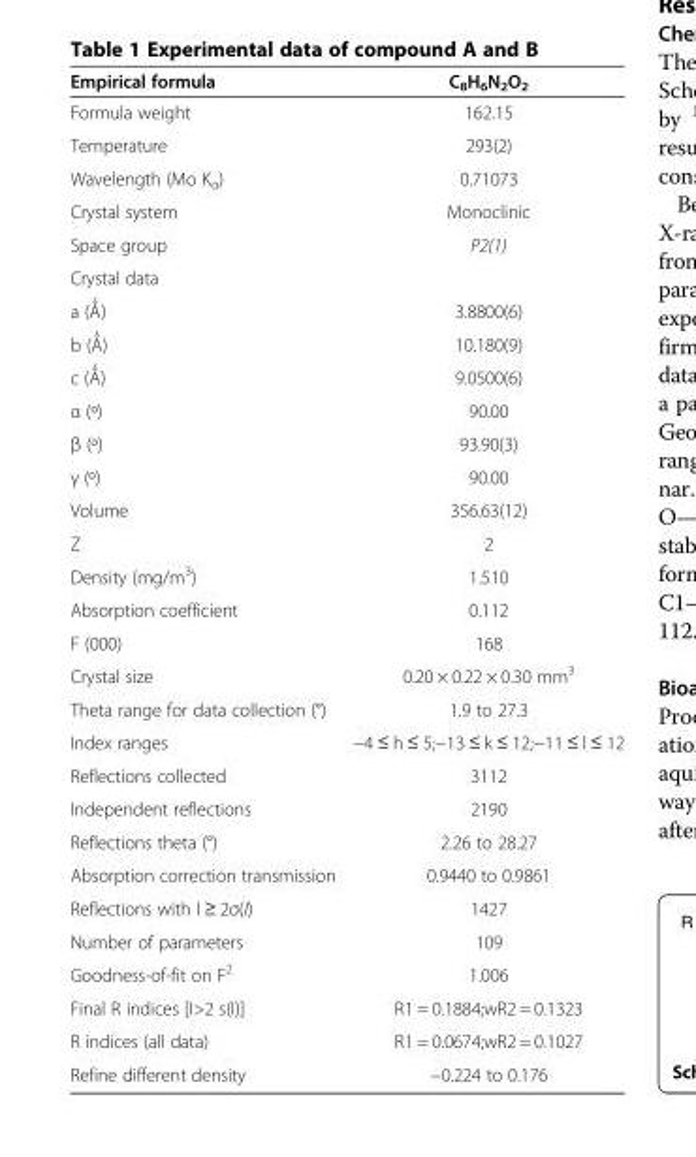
<table><thead><tr><td>Empirical formula</td><td>C<sub>8</sub>H<sub>6</sub>N<sub>2</sub>O<sub>2</sub></td></tr></thead><tbody><tr><td>Formula weight</td><td>162.15</td></tr><tr><td>Temperature</td><td>293(2)</td></tr><tr><td>Wavelength (Mo K<sub>α</sub>)</td><td>0.71073</td></tr><tr><td>Crystal system</td><td>Monoclinic</td></tr><tr><td>Space group</td><td>P2(1)</td></tr><tr><td colspan="2">Crystal data</td></tr><tr><td>a (Ǻ)</td><td>3.8800(6)</td></tr><tr><td>b (Ǻ)</td><td>10.180(9)</td></tr><tr><td>c (Ǻ)</td><td>9.0500(6)</td></tr><tr><td>α (º)</td><td>90.00</td></tr><tr><td>β (º)</td><td>93.90(3)</td></tr><tr><td>γ (º)</td><td>90.00</td></tr><tr><td>Volume</td><td>356.63(12)</td></tr><tr><td>Z</td><td>2</td></tr><tr><td>Density (mg/m<sup>3</sup>)</td><td>1.510</td></tr><tr><td>Absorption coefficient</td><td>0.112</td></tr><tr><td>F (000)</td><td>168</td></tr><tr><td>Crystal size</td><td>0.20 × 0.22 × 0.30 mm<sup>3</sup></td></tr><tr><td>Theta range for data collection (°)</td><td>1.9 to 27.3</td></tr><tr><td>Index ranges</td><td>−4 ≤ h ≤ 5;−13 ≤ k ≤ 12;−11 ≤ l ≤ 12</td></tr><tr><td>Reflections collected</td><td>3112</td></tr><tr><td>Independent reflections</td><td>2190</td></tr><tr><td>Reflections theta (°)</td><td>2.26 to 28.27</td></tr><tr><td>Absorption correction transmission</td><td>0.9440 to 0.9861</td></tr><tr><td>Reflections with I ≥ 2σ(I)</td><td>1427</td></tr><tr><td>Number of parameters</td><td>109</td></tr><tr><td>Goodness-of-fit on F<sup>2</sup></td><td>1.006</td></tr><tr><td>Final R indices [I&gt;2 s(I)]</td><td>R1 = 0.1884;wR2 = 0.1323</td></tr><tr><td>R indices (all data)</td><td>R1 = 0.0674;wR2 = 0.1027</td></tr><tr><td>Refine different density</td><td>−0.224 to 0.176</td></tr></tbody></table>